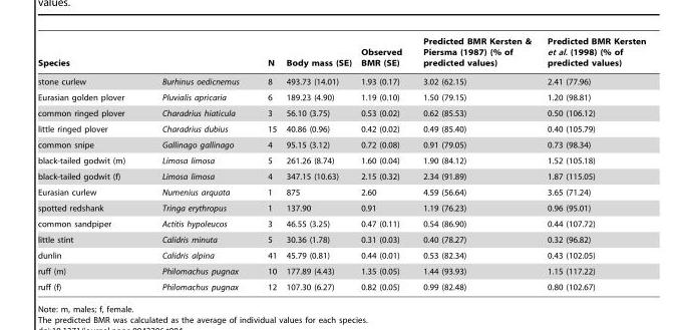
<table><thead><tr><td>Species</td><td></td><td>N</td><td>Body mass (SE)</td><td>Observed BMR (SE)</td><td>Predicted BMR Kersten &amp; Piersma (1987) (% of predicted values)</td><td>Predicted BMR Kersten et al. (1998) (% of predicted values)</td></tr></thead><tbody><tr><td>stone curlew</td><td>Burhinus oedicnemus</td><td>8</td><td>493.73 (14.01)</td><td>1.93 (0.17)</td><td>3.02 (62.15)</td><td>2.41 (77.96)</td></tr><tr><td>Eurasian golden plover</td><td>Pluvialis apricaria</td><td>6</td><td>189.23 (4.90)</td><td>1.19 (0.10)</td><td>1.50 (79.15)</td><td>1.20 (98.81)</td></tr><tr><td>common ringed plover</td><td>Charadrius hiaticula</td><td>3</td><td>56.10 (3.75)</td><td>0.53 (0.02)</td><td>0.62 (85.53)</td><td>0.50 (106.12)</td></tr><tr><td>little ringed plover</td><td>Charadrius dubius</td><td>15</td><td>40.86 (0.96)</td><td>0.42 (0.02)</td><td>0.49 (85.40)</td><td>0.40 (105.79)</td></tr><tr><td>common snipe</td><td>Gallinago gallinago</td><td>4</td><td>95.15 (3.12)</td><td>0.72 (0.08)</td><td>0.91 (79.05)</td><td>0.73 (98.34)</td></tr><tr><td>black-tailed godwit (m)</td><td>Limosa limosa</td><td>5</td><td>261.26 (8.74)</td><td>1.60 (0.04)</td><td>1.90 (84.12)</td><td>1.52 (105.18)</td></tr><tr><td>black-tailed godwit (f)</td><td>Limosa limosa</td><td>4</td><td>347.15 (10.63)</td><td>2.15 (0.32)</td><td>2.34 (91.89)</td><td>1.87 (115.05)</td></tr><tr><td>Eurasian curlew</td><td>Numenius arquata</td><td>1</td><td>875</td><td>2.60</td><td>4.59 (56.64)</td><td>3.65 (71.24)</td></tr><tr><td>spotted redshank</td><td>Tringa erythropus</td><td>1</td><td>137.90</td><td>0.91</td><td>1.19 (76.23)</td><td>0.96 (95.01)</td></tr><tr><td>common sandpiper</td><td>Actitis hypoleucos</td><td>3</td><td>46.55 (3.25)</td><td>0.47 (0.11)</td><td>0.54 (86.90)</td><td>0.44 (107.72)</td></tr><tr><td>little stint</td><td>Calidris minuta</td><td>5</td><td>30.36 (1.78)</td><td>0.31 (0.03)</td><td>0.40 (78.27)</td><td>0.32 (96.82)</td></tr><tr><td>dunlin</td><td>Calidris alpina</td><td>41</td><td>45.79 (0.81)</td><td>0.44 (0.01)</td><td>0.53 (82.34)</td><td>0.43 (102.05)</td></tr><tr><td>ruff (m)</td><td>Philomachus pugnax</td><td>10</td><td>177.89 (4.43)</td><td>1.35 (0.05)</td><td>1.44 (93.93)</td><td>1.15 (117.22)</td></tr><tr><td>ruff (f)</td><td>Philomachus pugnax</td><td>12</td><td>107.30 (6.27)</td><td>0.82 (0.05)</td><td>0.99 (82.48)</td><td>0.80 (102.67)</td></tr></tbody></table>